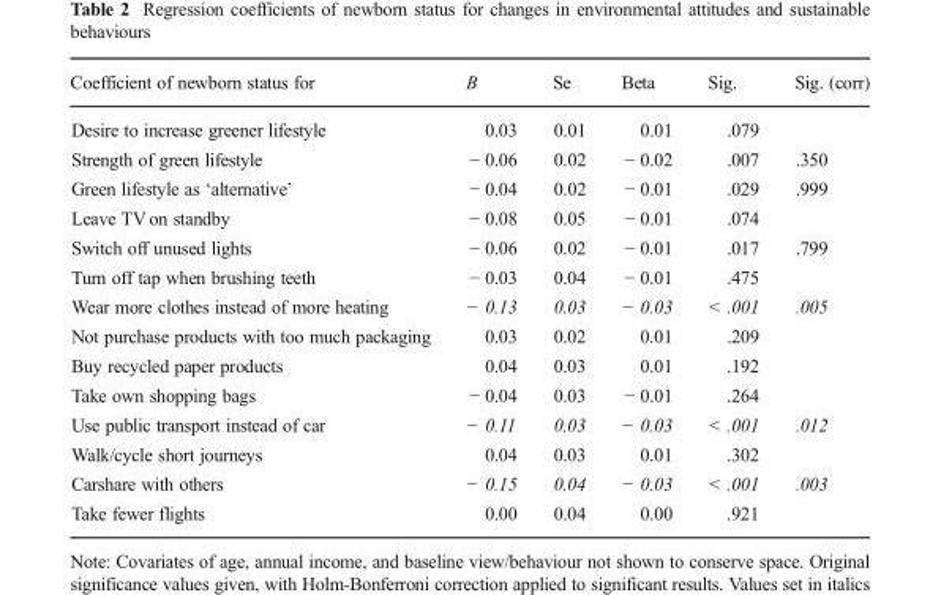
<table><thead><tr><td>Coefficient of newborn status for</td><td>B</td><td>Se</td><td>Beta</td><td>Sig.</td><td>Sig. (corr)</td></tr></thead><tbody><tr><td>Desire to increase greener lifestyle</td><td>0.03</td><td>0.01</td><td>0.01</td><td>.079</td><td></td></tr><tr><td>Strength of green lifestyle</td><td>− 0.06</td><td>0.02</td><td>− 0.02</td><td>.007</td><td>.350</td></tr><tr><td>Green lifestyle as ‘alternative’</td><td>− 0.04</td><td>0.02</td><td>− 0.01</td><td>.029</td><td>.999</td></tr><tr><td>Leave TV on standby</td><td>− 0.08</td><td>0.05</td><td>− 0.01</td><td>.074</td><td></td></tr><tr><td>Switch off unused lights</td><td>− 0.06</td><td>0.02</td><td>− 0.01</td><td>.017</td><td>.799</td></tr><tr><td>Turn off tap when brushing teeth</td><td>− 0.03</td><td>0.04</td><td>− 0.01</td><td>.475</td><td></td></tr><tr><td>Wear more clothes instead of more heating</td><td>− 0.13</td><td>0.03</td><td>− 0.03</td><td>&lt; .001</td><td>.005</td></tr><tr><td>Not purchase products with too much packaging</td><td>0.03</td><td>0.02</td><td>0.01</td><td>.209</td><td></td></tr><tr><td>Buy recycled paper products</td><td>0.04</td><td>0.03</td><td>0.01</td><td>.192</td><td></td></tr><tr><td>Take own shopping bags</td><td>− 0.04</td><td>0.03</td><td>− 0.01</td><td>.264</td><td></td></tr><tr><td>Use public transport instead of car</td><td>− 0.11</td><td>0.03</td><td>− 0.03</td><td>&lt; .001</td><td>.012</td></tr><tr><td>Walk/cycle short journeys</td><td>0.04</td><td>0.03</td><td>0.01</td><td>.302</td><td></td></tr><tr><td>Carshare with others</td><td>− 0.15</td><td>0.04</td><td>− 0.03</td><td>&lt; .001</td><td>.003</td></tr><tr><td>Take fewer flights</td><td>0.00</td><td>0.04</td><td>0.00</td><td>.921</td><td></td></tr></tbody></table>